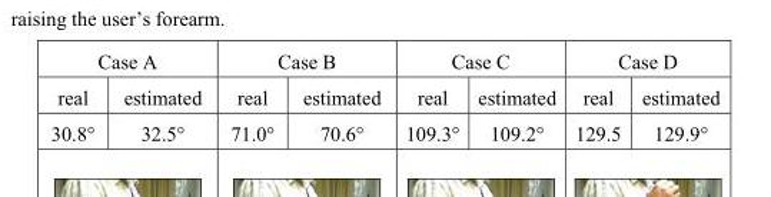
<table><thead><tr><td colspan="2">Case A</td><td colspan="2">Case B</td><td colspan="2">Case C</td><td colspan="2">Case D</td></tr><tr><td>real</td><td>estimated</td><td>real</td><td>estimated</td><td>real</td><td>estimated</td><td>real</td><td>estimated</td></tr></thead><tbody><tr><td>30.8°</td><td>32.5°</td><td>71.0°</td><td>70.6°</td><td>109.3°</td><td>109.2°</td><td>129.5</td><td>129.9°</td></tr></tbody></table>